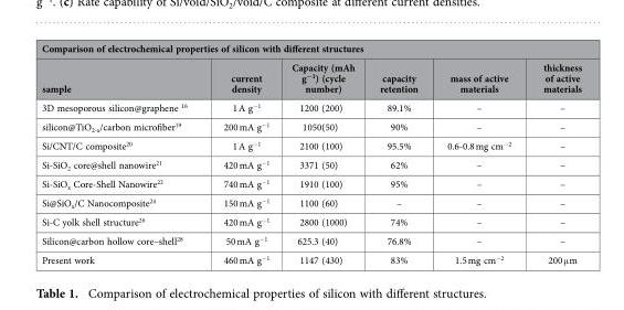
<table><thead><tr><td colspan="6">Comparison of electrochemical properties of silicon with different structures</td></tr><tr><td>sample</td><td>current density</td><td>Capacity (mAh g<sup>−1</sup>) (cycle number)</td><td>capacity retention</td><td>mass of active materials</td><td>thickness of active materials</td></tr></thead><tbody><tr><td>3D mesoporous silicon@graphene 16</td><td>1 A g<sup>−1</sup></td><td>1200 (200)</td><td>89.1%</td><td>–</td><td>–</td></tr><tr><td>silicon@TiO<sub>2-x</sub>/carbon microfiber<sup>19</sup></td><td>200 mA g<sup>−1</sup></td><td>1050(50)</td><td>90%</td><td>–</td><td>–</td></tr><tr><td>Si/CNT/C composite<sup>20</sup></td><td>1 A g<sup>−1</sup></td><td>2100 (100)</td><td>95.5%</td><td>0.6-0.8 mg cm<sup>−2</sup></td><td>–</td></tr><tr><td>Si-SiO<sub>2</sub> core@shell nanowire<sup>21</sup></td><td>420 mA g<sup>−1</sup></td><td>3371 (50)</td><td>62%</td><td>–</td><td>–</td></tr><tr><td>Si-SiO<sub>x</sub> Core-Shell Nanowire<sup>22</sup></td><td>740 mA g<sup>−1</sup></td><td>1910 (100)</td><td>95%</td><td>–</td><td>–</td></tr><tr><td>Si@SiO<sub>x</sub>/C Nanocomposite<sup>24</sup></td><td>150 mA g<sup>−1</sup></td><td>1100 (60)</td><td>–</td><td>–</td><td>–</td></tr><tr><td>Si-C yolk shell structure<sup>26</sup></td><td>420 mA g<sup>−1</sup></td><td>2800 (1000)</td><td>74%</td><td>–</td><td>–</td></tr><tr><td>Silicon@carbon hollow core–shell<sup>28</sup></td><td>50 mA g<sup>−1</sup></td><td>625.3 (40)</td><td>76.8%</td><td>–</td><td>–</td></tr><tr><td>Present work</td><td>460 mA g<sup>−1</sup></td><td>1147 (430)</td><td>83%</td><td>1.5 mg cm<sup>−2</sup></td><td>200 μ m</td></tr></tbody></table>